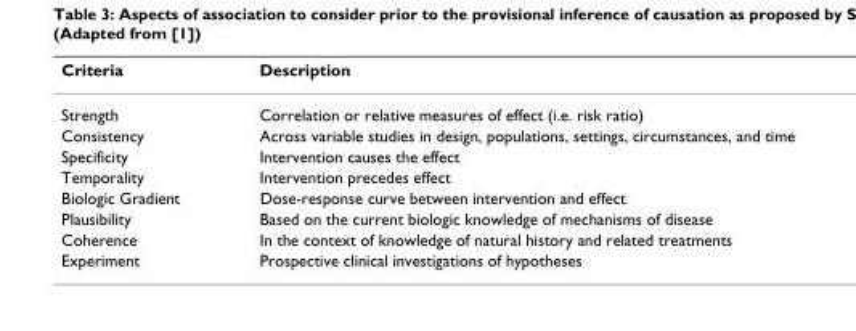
<table><thead><tr><td>Criteria</td><td>Description</td></tr></thead><tbody><tr><td>Strength</td><td>Correlation or relative measures of effect (i.e. risk ratio)</td></tr><tr><td>Consistency</td><td>Across variable studies in design, populations, settings, circumstances, and time</td></tr><tr><td>Specificity</td><td>Intervention causes the effect</td></tr><tr><td>Temporality</td><td>Intervention precedes effect</td></tr><tr><td>Biologic Gradient</td><td>Dose-response curve between intervention and effect</td></tr><tr><td>Plausibility</td><td>Based on the current biologic knowledge of mechanisms of disease</td></tr><tr><td>Coherence</td><td>In the context of knowledge of natural history and related treatments</td></tr><tr><td>Experiment</td><td>Prospective clinical investigations of hypotheses</td></tr></tbody></table>